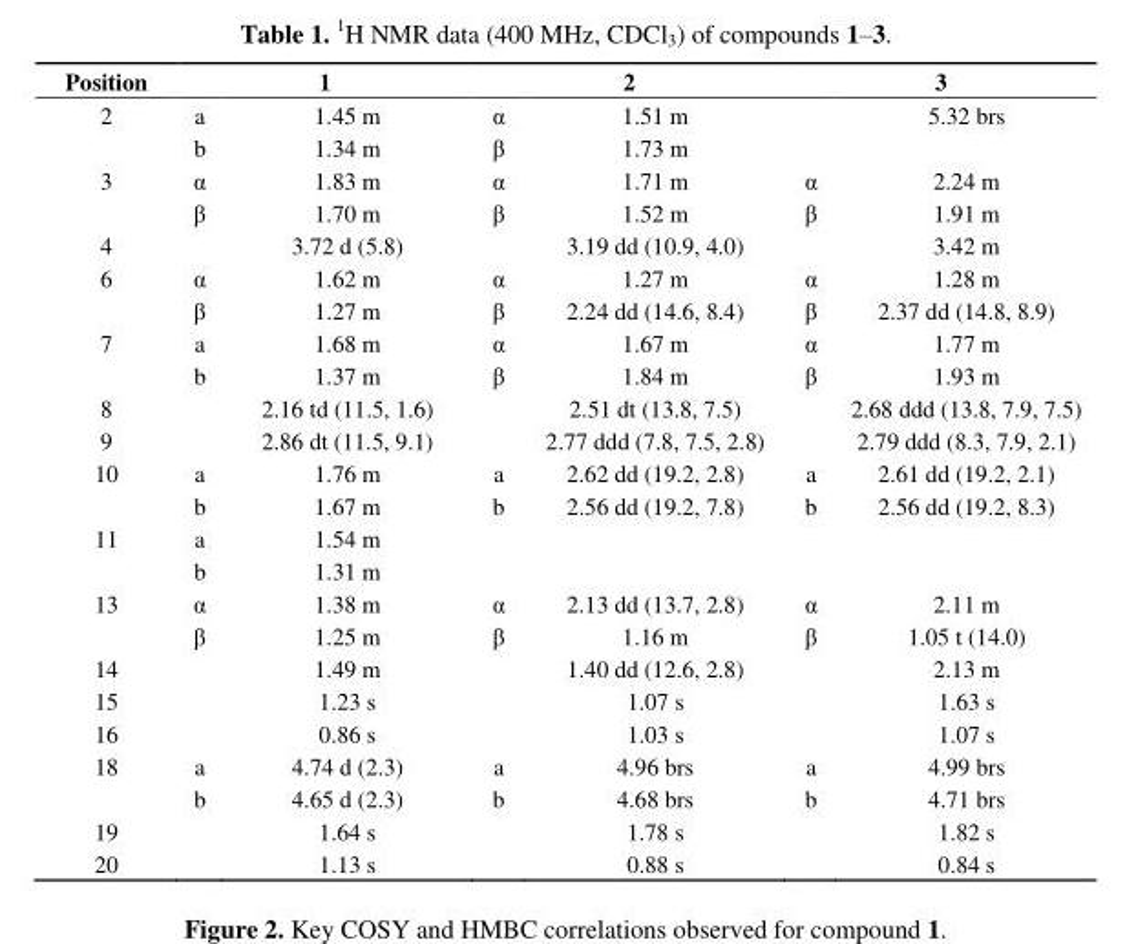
<table><thead><tr><td rowspan="2">Position 2</td><td colspan="2">1</td><td colspan="2">2</td><td colspan="2">3</td></tr><tr><td>a</td><td>1.45 m</td><td>α</td><td>1.51 m</td><td></td><td>5.32 brs</td></tr></thead><tbody><tr><td></td><td>b</td><td>1.34 m</td><td>β</td><td>1.73 m</td><td></td><td></td></tr><tr><td rowspan="2">3</td><td>α</td><td>1.83 m</td><td>α</td><td>1.71 m</td><td>α</td><td>2.24 m</td></tr><tr><td>β</td><td>1.70 m</td><td>β</td><td>1.52 m</td><td>β</td><td>1.91 m</td></tr><tr><td>4</td><td></td><td>3.72 d (5.8)</td><td></td><td>3.19 dd (10.9, 4.0)</td><td></td><td>3.42 m</td></tr><tr><td rowspan="2">6</td><td>α</td><td>1.62 m</td><td>α</td><td>1.27 m</td><td>α</td><td>1.28 m</td></tr><tr><td>β</td><td>1.27 m</td><td>β</td><td>2.24 dd (14.6, 8.4)</td><td>β</td><td>2.37 dd (14.8, 8.9)</td></tr><tr><td rowspan="2">7</td><td>a</td><td>1.68 m</td><td>α</td><td>1.67 m</td><td>α</td><td>1.77 m</td></tr><tr><td>b</td><td>1.37 m</td><td>β</td><td>1.84 m</td><td>β</td><td>1.93 m</td></tr><tr><td>8</td><td></td><td>2.16 td (11.5, 1.6)</td><td></td><td>2.51 dt (13.8, 7.5)</td><td></td><td>2.68 ddd (13.8, 7.9, 7.5)</td></tr><tr><td>9</td><td></td><td>2.86 dt (11.5, 9.1)</td><td></td><td>2.77 ddd (7.8, 7.5, 2.8)</td><td></td><td>2.79 ddd (8.3, 7.9, 2.1)</td></tr><tr><td rowspan="2">10</td><td>a</td><td>1.76 m</td><td>a</td><td>2.62 dd (19.2, 2.8)</td><td>a</td><td>2.61 dd (19.2, 2.1)</td></tr><tr><td>b</td><td>1.67 m</td><td>b</td><td>2.56 dd (19.2, 7.8)</td><td>b</td><td>2.56 dd (19.2, 8.3)</td></tr><tr><td rowspan="2">11</td><td>a</td><td>1.54 m</td><td></td><td></td><td></td><td></td></tr><tr><td>b</td><td>1.31 m</td><td></td><td></td><td></td><td></td></tr><tr><td rowspan="2">13</td><td>α</td><td>1.38 m</td><td>α</td><td>2.13 dd (13.7, 2.8)</td><td>α</td><td>2.11 m</td></tr><tr><td>β</td><td>1.25 m</td><td>β</td><td>1.16 m</td><td>β</td><td>1.05 t (14.0)</td></tr><tr><td>14</td><td></td><td>1.49 m</td><td></td><td>1.40 dd (12.6, 2.8)</td><td></td><td>2.13 m</td></tr><tr><td>15</td><td></td><td>1.23 s</td><td></td><td>1.07 s</td><td></td><td>1.63 s</td></tr><tr><td>16</td><td></td><td>0.86 s</td><td></td><td>1.03 s</td><td></td><td>1.07 s</td></tr><tr><td rowspan="2">18</td><td>a</td><td>4.74 d (2.3)</td><td>a</td><td>4.96 brs</td><td>a</td><td>4.99 brs</td></tr><tr><td>b</td><td>4.65 d (2.3)</td><td>b</td><td>4.68 brs</td><td>b</td><td>4.71 brs</td></tr><tr><td>19</td><td></td><td>1.64 s</td><td></td><td>1.78 s</td><td></td><td>1.82 s</td></tr><tr><td>20</td><td></td><td>1.13 s</td><td></td><td>0.88 s</td><td></td><td>0.84 s</td></tr></tbody></table>